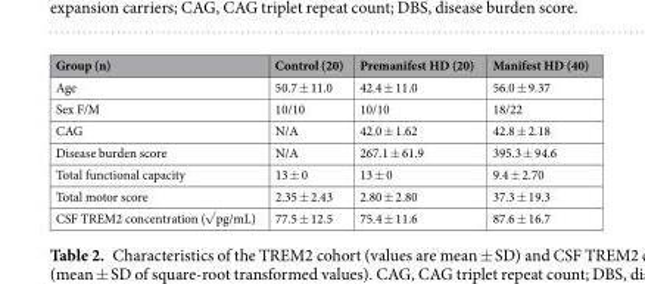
<table><thead><tr><td>Group (n)</td><td>Control (20)</td><td>Premanifest HD (20)</td><td>Manifest HD (40)</td></tr></thead><tbody><tr><td>Age</td><td>50.7 ± 11.0</td><td>42.4 ± 11.0</td><td>56.0 ± 9.37</td></tr><tr><td>Sex F/M</td><td>10/10</td><td>10/10</td><td>18/22</td></tr><tr><td>CAG</td><td>N/A</td><td>42.0 ± 1.62</td><td>42.8 ± 2.18</td></tr><tr><td>Disease burden score</td><td>N/A</td><td>267.1 ± 61.9</td><td>395.3 ± 94.6</td></tr><tr><td>Total functional capacity</td><td>13 ± 0</td><td>13 ± 0</td><td>9.4 ± 2.70</td></tr><tr><td>Total motor score</td><td>2.35 ± 2.43</td><td>2.80 ± 2.80</td><td>37.3 ± 19.3</td></tr><tr><td>CSF TREM2 concentration (√pg/mL)</td><td>77.5 ± 12.5</td><td>75.4 ± 11.6</td><td>87.6 ± 16.7</td></tr></tbody></table>